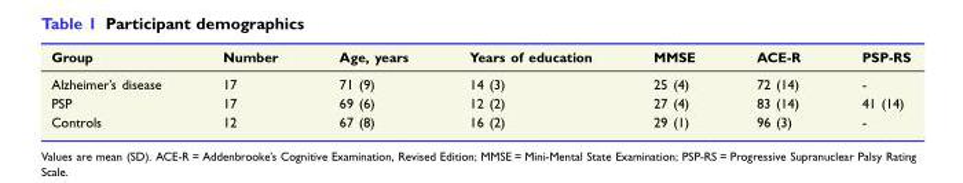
<table><thead><tr><td>Group</td><td>Number</td><td>Age, years</td><td>Years of education</td><td>MMSE</td><td>ACE-R</td><td>PSP-RS</td></tr></thead><tbody><tr><td>Alzheimer’s disease</td><td>17</td><td>71 (9)</td><td>14 (3)</td><td>25 (4)</td><td>72 (14)</td><td>-</td></tr><tr><td>PSP</td><td>17</td><td>69 (6)</td><td>12 (2)</td><td>27 (4)</td><td>83 (14)</td><td>41 (14)</td></tr><tr><td>Controls</td><td>12</td><td>67 (8)</td><td>16 (2)</td><td>29 (1)</td><td>96 (3)</td><td>-</td></tr></tbody></table>